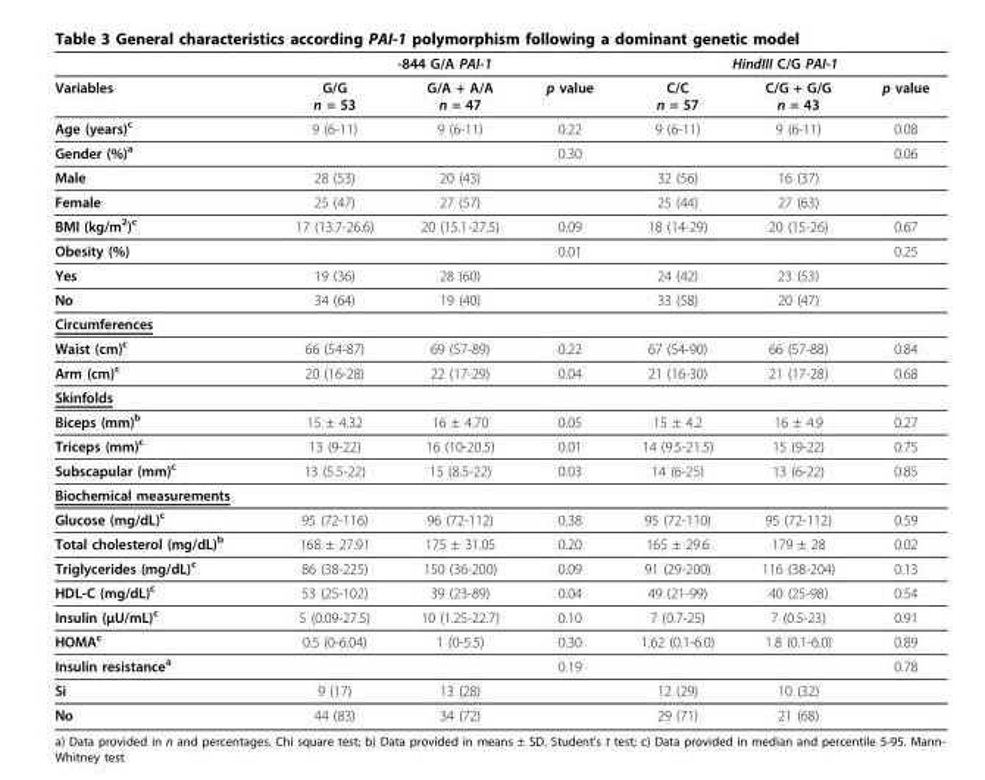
<table><thead><tr><td rowspan="2">Variables</td><td colspan="3">-844 G/A PAI-1</td><td colspan="3">HindIII C/G PAI-1</td></tr><tr><td>G/G n = 53</td><td>G/A + A/A n = 47</td><td>p value</td><td>C/C n = 57</td><td>C/G + G/G n = 43</td><td>p value</td></tr></thead><tbody><tr><td>Age (years)<sup>c</sup></td><td>9 (6-11)</td><td>9 (6-11)</td><td>0.22</td><td>9 (6-11)</td><td>9 (6-11)</td><td>0.08</td></tr><tr><td>Gender (%)<sup>a</sup></td><td></td><td></td><td>0.30</td><td></td><td></td><td>0.06</td></tr><tr><td>Male</td><td>28 (53)</td><td>20 (43)</td><td></td><td>32 (56)</td><td>16 (37)</td><td></td></tr><tr><td>Female</td><td>25 (47)</td><td>27 (57)</td><td></td><td>25 (44)</td><td>27 (63)</td><td></td></tr><tr><td>BMI (kg/m<sup>2</sup>)<sup>c</sup></td><td>17 (13.7-26.6)</td><td>20 (15.1-27.5)</td><td>0.09</td><td>18 (14-29)</td><td>20 (15-26)</td><td>0.67</td></tr><tr><td>Obesity (%)</td><td></td><td></td><td>0.01</td><td></td><td></td><td>0.25</td></tr><tr><td>Yes</td><td>19 (36)</td><td>28 (60)</td><td></td><td>24 (42)</td><td>23 (53)</td><td></td></tr><tr><td>No</td><td>34 (64)</td><td>19 (40)</td><td></td><td>33 (58)</td><td>20 (47)</td><td></td></tr><tr><td colspan="7">Circumferences</td></tr><tr><td>Waist (cm)<sup>c</sup></td><td>66 (54-87)</td><td>69 (57-89)</td><td>0.22</td><td>67 (54-90)</td><td>66 (57-88)</td><td>0.84</td></tr><tr><td>Arm (cm)<sup>c</sup></td><td>20 (16-28)</td><td>22 (17-29)</td><td>0.04</td><td>21 (16-30)</td><td>21 (17-28)</td><td>0.68</td></tr><tr><td colspan="7">Skinfolds</td></tr><tr><td>Biceps (mm)<sup>b</sup></td><td>15 ± 4.32</td><td>16 ± 4.70</td><td>0.05</td><td>15 ± 4.2</td><td>16 ± 4.9</td><td>0.27</td></tr><tr><td>Triceps (mm)<sup>c</sup></td><td>13 (9-22)</td><td>16 (10-20.5)</td><td>0.01</td><td>14 (9.5-21.5)</td><td>15 (9-22)</td><td>0.75</td></tr><tr><td>Subscapular (mm)<sup>c</sup></td><td>13 (5.5-22)</td><td>15 (8.5-22)</td><td>0.03</td><td>14 (6-25)</td><td>13 (6-22)</td><td>0.85</td></tr><tr><td colspan="7">Biochemical measurements</td></tr><tr><td>Glucose (mg/dL)<sup>c</sup></td><td>95 (72-116)</td><td>96 (72-112)</td><td>0.38</td><td>95 (72-110)</td><td>95 (72-112)</td><td>0.59</td></tr><tr><td>Total cholesterol (mg/dL)<sup>b</sup></td><td>168 ± 27.91</td><td>175 ± 31.05</td><td>0.20</td><td>165 ± 29.6</td><td>179 ± 28</td><td>0.02</td></tr><tr><td>Triglycerides (mg/dL)<sup>c</sup></td><td>86 (38-225)</td><td>150 (36-200)</td><td>0.09</td><td>91 (29-200)</td><td>116 (38-204)</td><td>0.13</td></tr><tr><td>HDL-C (mg/dL)<sup>c</sup></td><td>53 (25-102)</td><td>39 (23-89)</td><td>0.04</td><td>49 (21-99)</td><td>40 (25-98)</td><td>0.54</td></tr><tr><td>Insulin (μU/mL)<sup>c</sup></td><td>5 (0.09-27.5)</td><td>10 (1.25-22.7)</td><td>0.10</td><td>7 (0.7-25)</td><td>7 (0.5-23)</td><td>0.91</td></tr><tr><td>HOMA<sup>c</sup></td><td>0.5 (0-6.04)</td><td>1 (0-5.5)</td><td>0.30</td><td>1.62 (0.1-6.0)</td><td>1.8 (0.1-6.0)</td><td>0.89</td></tr><tr><td>Insulin resistance<sup>a</sup></td><td></td><td></td><td>0.19</td><td></td><td></td><td>0.78</td></tr><tr><td>Si</td><td>9 (17)</td><td>13 (28)</td><td></td><td>12 (29)</td><td>10 (32)</td><td></td></tr><tr><td>No</td><td>44 (83)</td><td>34 (72)</td><td></td><td>29 (71)</td><td>21 (68)</td><td></td></tr></tbody></table>